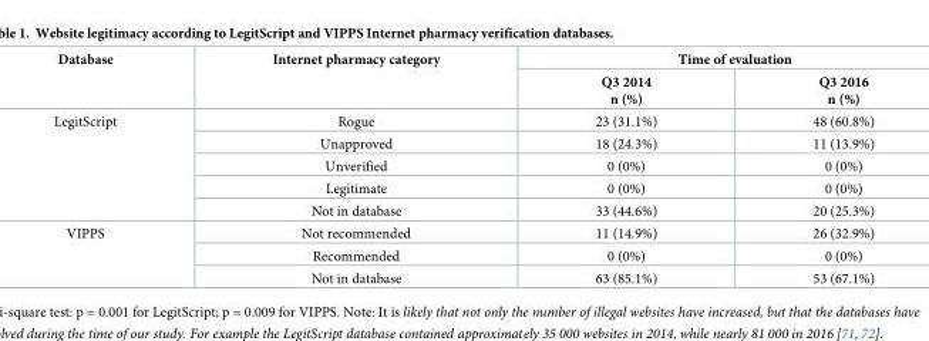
<table><thead><tr><td rowspan="2">Database</td><td rowspan="2">Internet pharmacy category</td><td colspan="2">Time of evaluation</td></tr><tr><td>Q3 2014 n (%)</td><td>Q3 2016 n (%)</td></tr></thead><tbody><tr><td rowspan="5">LegitScript</td><td>Rogue</td><td>23 (31.1%)</td><td>48 (60.8%)</td></tr><tr><td>Unapproved</td><td>18 (24.3%)</td><td>11 (13.9%)</td></tr><tr><td>Unverified</td><td>0 (0%)</td><td>0 (0%)</td></tr><tr><td>Legitimate</td><td>0 (0%)</td><td>0 (0%)</td></tr><tr><td>Not in database</td><td>33 (44.6%)</td><td>20 (25.3%)</td></tr><tr><td rowspan="3">VIPPS</td><td>Not recommended</td><td>11 (14.9%)</td><td>26 (32.9%)</td></tr><tr><td>Recommended</td><td>0 (0%)</td><td>0 (0%)</td></tr><tr><td>Not in database</td><td>63 (85.1%)</td><td>53 (67.1%)</td></tr></tbody></table>